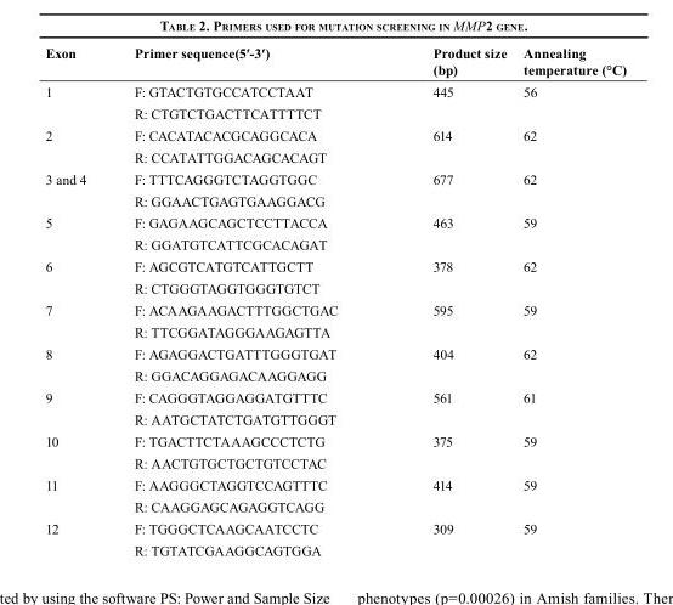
<table><thead><tr><td>Exon</td><td>Primer sequence(5′-3′)</td><td>Product size (bp)</td><td>Annealing temperature (°C)</td></tr></thead><tbody><tr><td rowspan="2">1</td><td>F: GTACTGTGCCATCCTAAT</td><td>445</td><td>56</td></tr><tr><td>R: CTGTCTGACTTCATTTTCT</td><td></td><td></td></tr><tr><td rowspan="2">2</td><td>F: CACATACACGCAGGCACA</td><td>614</td><td>62</td></tr><tr><td>R: CCATATTGGACAGCACAGT</td><td></td><td></td></tr><tr><td rowspan="2">3 and 4</td><td>F: TTTCAGGGTCTAGGTGGC</td><td>677</td><td>62</td></tr><tr><td>R: GGAACTGAGTGAAGGACG</td><td></td><td></td></tr><tr><td rowspan="2">5</td><td>F: GAGAAGCAGCTCCTTACCA</td><td>463</td><td>59</td></tr><tr><td>R: GGATGTCATTCGCACAGAT</td><td></td><td></td></tr><tr><td rowspan="2">6</td><td>F: AGCGTCATGTCATTGCTT</td><td>378</td><td>62</td></tr><tr><td>R: CTGGGTAGGTGGGTGTCT</td><td></td><td></td></tr><tr><td rowspan="2">7</td><td>F: ACAAGAAGACTTTGGCTGAC</td><td>595</td><td>59</td></tr><tr><td>R: TTCGGATAGGGAAGAGTTA</td><td></td><td></td></tr><tr><td rowspan="2">8</td><td>F: AGAGGACTGATTTGGGTGAT</td><td>404</td><td>62</td></tr><tr><td>R: GGACAGGAGACAAGGAGG</td><td></td><td></td></tr><tr><td rowspan="2">9</td><td>F: CAGGGTAGGAGGATGTTTC</td><td>561</td><td>61</td></tr><tr><td>R: AATGCTATCTGATGTTGGGT</td><td></td><td></td></tr><tr><td rowspan="2">10</td><td>F: TGACTTCTAAAGCCCTCTG</td><td>375</td><td>59</td></tr><tr><td>R: AACTGTGCTGCTGTCCTAC</td><td></td><td></td></tr><tr><td rowspan="2">11</td><td>F: AAGGGCTAGGTCCAGTTTC</td><td>414</td><td>59</td></tr><tr><td>R: CAAGGAGCAGAGGTCAGG</td><td></td><td></td></tr><tr><td rowspan="2">12</td><td>F: TGGGCTCAAGCAATCCTC</td><td>309</td><td>59</td></tr><tr><td>R: TGTATCGAAGGCAGTGGA</td><td></td><td></td></tr></tbody></table>